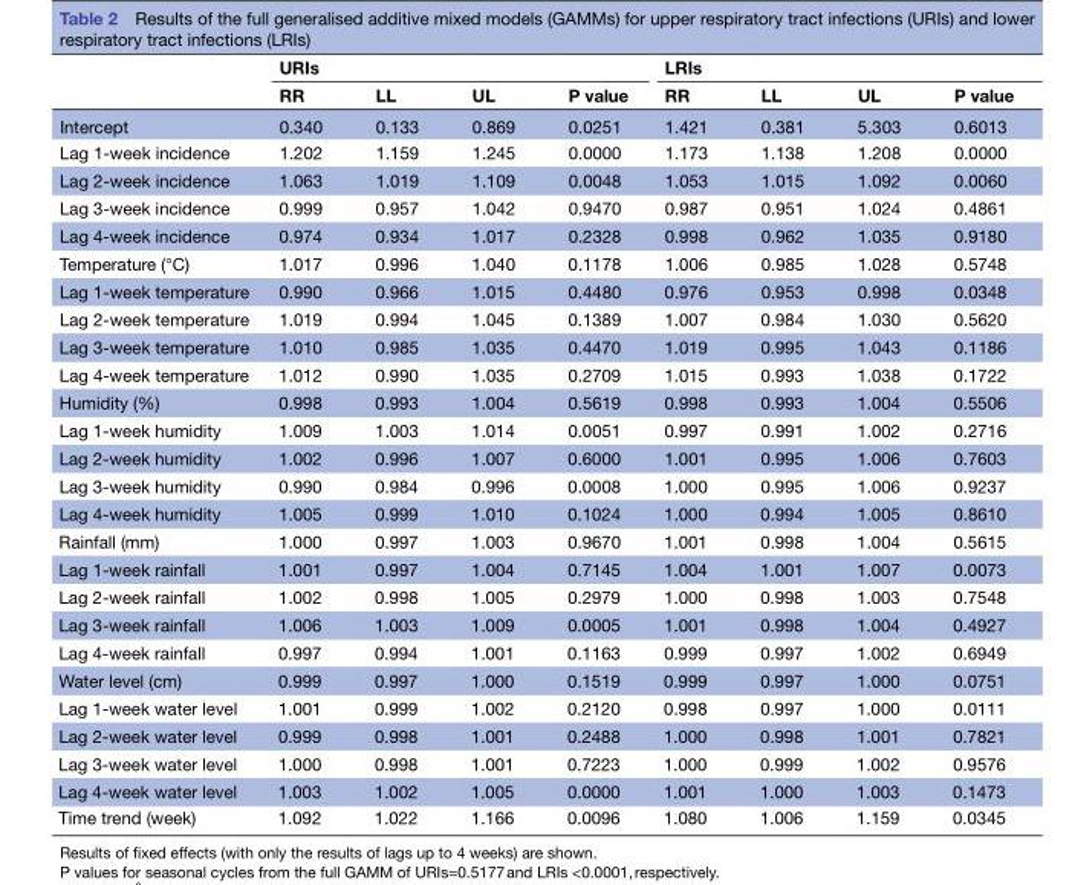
<table><thead><tr><td rowspan="2"></td><td colspan="4">URIs</td><td colspan="4">LRIs</td></tr><tr><td>RR</td><td>LL</td><td>UL</td><td>P value</td><td>RR</td><td>LL</td><td>UL</td><td>P value</td></tr></thead><tbody><tr><td>Intercept</td><td>0.340</td><td>0.133</td><td>0.869</td><td>0.0251</td><td>1.421</td><td>0.381</td><td>5.303</td><td>0.6013</td></tr><tr><td>Lag 1-week incidence</td><td>1.202</td><td>1.159</td><td>1.245</td><td>0.0000</td><td>1.173</td><td>1.138</td><td>1.208</td><td>0.0000</td></tr><tr><td>Lag 2-week incidence</td><td>1.063</td><td>1.019</td><td>1.109</td><td>0.0048</td><td>1.053</td><td>1.015</td><td>1.092</td><td>0.0060</td></tr><tr><td>Lag 3-week incidence</td><td>0.999</td><td>0.957</td><td>1.042</td><td>0.9470</td><td>0.987</td><td>0.951</td><td>1.024</td><td>0.4861</td></tr><tr><td>Lag 4-week incidence</td><td>0.974</td><td>0.934</td><td>1.017</td><td>0.2328</td><td>0.998</td><td>0.962</td><td>1.035</td><td>0.9180</td></tr><tr><td>Temperature (°C)</td><td>1.017</td><td>0.996</td><td>1.040</td><td>0.1178</td><td>1.006</td><td>0.985</td><td>1.028</td><td>0.5748</td></tr><tr><td>Lag 1-week temperature</td><td>0.990</td><td>0.966</td><td>1.015</td><td>0.4480</td><td>0.976</td><td>0.953</td><td>0.998</td><td>0.0348</td></tr><tr><td>Lag 2-week temperature</td><td>1.019</td><td>0.994</td><td>1.045</td><td>0.1389</td><td>1.007</td><td>0.984</td><td>1.030</td><td>0.5620</td></tr><tr><td>Lag 3-week temperature</td><td>1.010</td><td>0.985</td><td>1.035</td><td>0.4470</td><td>1.019</td><td>0.995</td><td>1.043</td><td>0.1186</td></tr><tr><td>Lag 4-week temperature</td><td>1.012</td><td>0.990</td><td>1.035</td><td>0.2709</td><td>1.015</td><td>0.993</td><td>1.038</td><td>0.1722</td></tr><tr><td>Humidity (%)</td><td>0.998</td><td>0.993</td><td>1.004</td><td>0.5619</td><td>0.998</td><td>0.993</td><td>1.004</td><td>0.5506</td></tr><tr><td>Lag 1-week humidity</td><td>1.009</td><td>1.003</td><td>1.014</td><td>0.0051</td><td>0.997</td><td>0.991</td><td>1.002</td><td>0.2716</td></tr><tr><td>Lag 2-week humidity</td><td>1.002</td><td>0.996</td><td>1.007</td><td>0.6000</td><td>1.001</td><td>0.995</td><td>1.006</td><td>0.7603</td></tr><tr><td>Lag 3-week humidity</td><td>0.990</td><td>0.984</td><td>0.996</td><td>0.0008</td><td>1.000</td><td>0.995</td><td>1.006</td><td>0.9237</td></tr><tr><td>Lag 4-week humidity</td><td>1.005</td><td>0.999</td><td>1.010</td><td>0.1024</td><td>1.000</td><td>0.994</td><td>1.005</td><td>0.8610</td></tr><tr><td>Rainfall (mm)</td><td>1.000</td><td>0.997</td><td>1.003</td><td>0.9670</td><td>1.001</td><td>0.998</td><td>1.004</td><td>0.5615</td></tr><tr><td>Lag 1-week rainfall</td><td>1.001</td><td>0.997</td><td>1.004</td><td>0.7145</td><td>1.004</td><td>1.001</td><td>1.007</td><td>0.0073</td></tr><tr><td>Lag 2-week rainfall</td><td>1.002</td><td>0.998</td><td>1.005</td><td>0.2979</td><td>1.000</td><td>0.998</td><td>1.003</td><td>0.7548</td></tr><tr><td>Lag 3-week rainfall</td><td>1.006</td><td>1.003</td><td>1.009</td><td>0.0005</td><td>1.001</td><td>0.998</td><td>1.004</td><td>0.4927</td></tr><tr><td>Lag 4-week rainfall</td><td>0.997</td><td>0.994</td><td>1.001</td><td>0.1163</td><td>0.999</td><td>0.997</td><td>1.002</td><td>0.6949</td></tr><tr><td>Water level (cm)</td><td>0.999</td><td>0.997</td><td>1.000</td><td>0.1519</td><td>0.999</td><td>0.997</td><td>1.000</td><td>0.0751</td></tr><tr><td>Lag 1-week water level</td><td>1.001</td><td>0.999</td><td>1.002</td><td>0.2120</td><td>0.998</td><td>0.997</td><td>1.000</td><td>0.0111</td></tr><tr><td>Lag 2-week water level</td><td>0.999</td><td>0.998</td><td>1.001</td><td>0.2488</td><td>1.000</td><td>0.998</td><td>1.001</td><td>0.7821</td></tr><tr><td>Lag 3-week water level</td><td>1.000</td><td>0.998</td><td>1.001</td><td>0.7223</td><td>1.000</td><td>0.999</td><td>1.002</td><td>0.9576</td></tr><tr><td>Lag 4-week water level</td><td>1.003</td><td>1.002</td><td>1.005</td><td>0.0000</td><td>1.001</td><td>1.000</td><td>1.003</td><td>0.1473</td></tr><tr><td>Time trend (week)</td><td>1.092</td><td>1.022</td><td>1.166</td><td>0.0096</td><td>1.080</td><td>1.006</td><td>1.159</td><td>0.0345</td></tr></tbody></table>